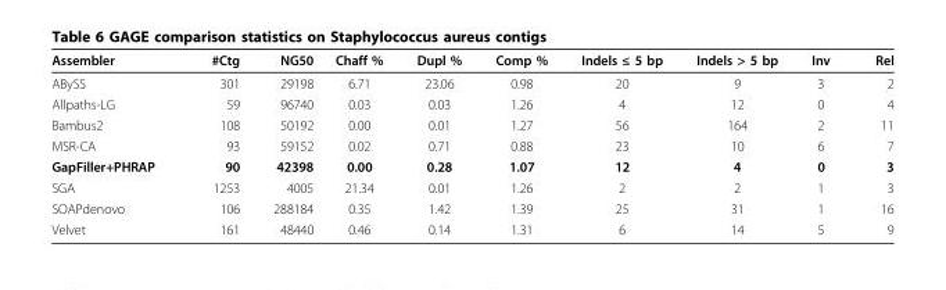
<table><thead><tr><td>Assembler</td><td>#Ctg</td><td>NG50</td><td>Chaff %</td><td>Dupl %</td><td>Comp %</td><td>Indels ≤ 5 bp</td><td>Indels &gt; 5 bp</td><td>Inv</td><td>Rel</td></tr></thead><tbody><tr><td>ABySS</td><td>301</td><td>29198</td><td>6.71</td><td>23.06</td><td>0.98</td><td>20</td><td>9</td><td>3</td><td>2</td></tr><tr><td>Allpaths-LG</td><td>59</td><td>96740</td><td>0.03</td><td>0.03</td><td>1.26</td><td>4</td><td>12</td><td>0</td><td>4</td></tr><tr><td>Bambus2</td><td>108</td><td>50192</td><td>0.00</td><td>0.01</td><td>1.27</td><td>56</td><td>164</td><td>2</td><td>11</td></tr><tr><td>MSR-CA</td><td>93</td><td>59152</td><td>0.02</td><td>0.71</td><td>0.88</td><td>23</td><td>10</td><td>6</td><td>7</td></tr><tr><td>GapFiller+PHRAP</td><td>90</td><td>42398</td><td>0.00</td><td>0.28</td><td>1.07</td><td>12</td><td>4</td><td>0</td><td>3</td></tr><tr><td>SGA</td><td>1253</td><td>4005</td><td>21.34</td><td>0.01</td><td>1.26</td><td>2</td><td>2</td><td>1</td><td>3</td></tr><tr><td>SOAPdenovo</td><td>106</td><td>288184</td><td>0.35</td><td>1.42</td><td>1.39</td><td>25</td><td>31</td><td>1</td><td>16</td></tr><tr><td>Velvet</td><td>161</td><td>48440</td><td>0.46</td><td>0.14</td><td>1.31</td><td>6</td><td>14</td><td>5</td><td>9</td></tr></tbody></table>